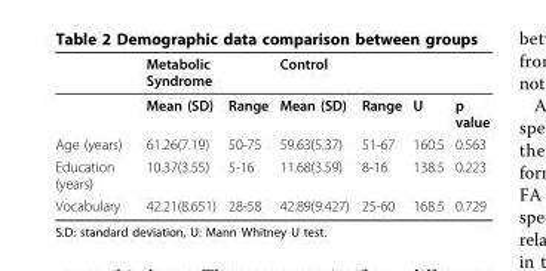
<table><thead><tr><td rowspan="2"></td><td colspan="2">Metabolic Syndrome</td><td colspan="2">Control</td><td rowspan="2">U</td><td rowspan="2">p value</td></tr><tr><td>Mean (SD)</td><td>Range</td><td>Mean (SD)</td><td>Range</td></tr></thead><tbody><tr><td>Age (years)</td><td>61.26(7.19)</td><td>50-75</td><td>59.63(5.37)</td><td>51-67</td><td>160.5</td><td>0.563</td></tr><tr><td>Education (years)</td><td>10.37(3.55)</td><td>5-16</td><td>11.68(3.59)</td><td>8-16</td><td>138.5</td><td>0.223</td></tr><tr><td>Vocabulary</td><td>42.21(8.651)</td><td>28-58</td><td>42.89(9.427)</td><td>25-60</td><td>168.5</td><td>0.729</td></tr></tbody></table>